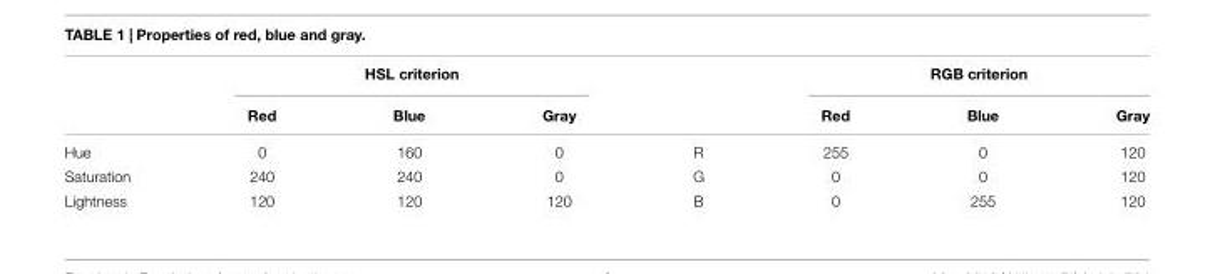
<table><thead><tr><td rowspan="2"></td><td colspan="3">HSL criterion</td><td rowspan="2"></td><td colspan="3">RGB criterion</td></tr><tr><td>Red</td><td>Blue</td><td>Gray</td><td>Red</td><td>Blue</td><td>Gray</td></tr></thead><tbody><tr><td>Hue</td><td>0</td><td>160</td><td>0</td><td>R</td><td>255</td><td>0</td><td>120</td></tr><tr><td>Saturation</td><td>240</td><td>240</td><td>0</td><td>G</td><td>0</td><td>0</td><td>120</td></tr><tr><td>Lightness</td><td>120</td><td>120</td><td>120</td><td>B</td><td>0</td><td>255</td><td>120</td></tr></tbody></table>